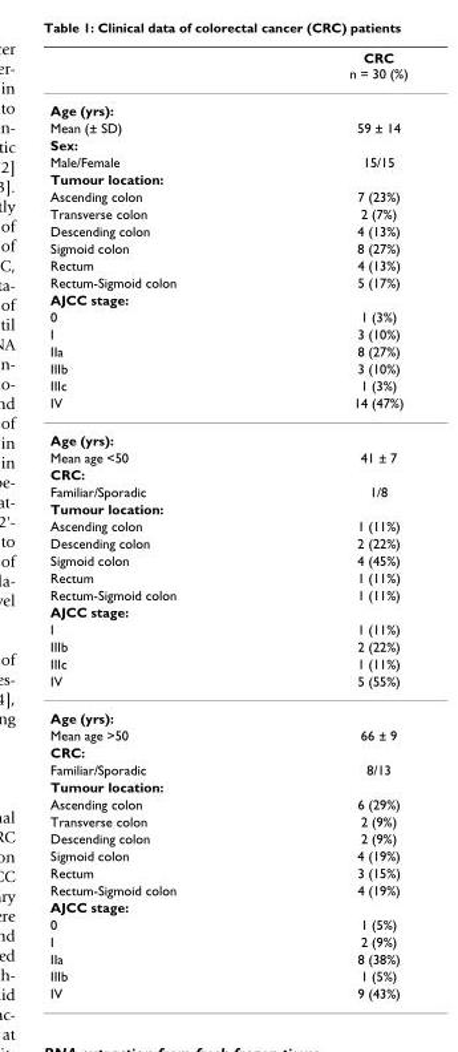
<table><thead><tr><td></td><td>CRC n = 30 (%)</td></tr></thead><tbody><tr><td colspan="2">Age (yrs):</td></tr><tr><td>Mean (± SD)</td><td>59 ± 14</td></tr><tr><td colspan="2">Sex:</td></tr><tr><td>Male/Female</td><td>15/15</td></tr><tr><td colspan="2">Tumour location:</td></tr><tr><td>Ascending colon</td><td>7 (23%)</td></tr><tr><td>Transverse colon</td><td>2 (7%)</td></tr><tr><td>Descending colon</td><td>4 (13%)</td></tr><tr><td>Sigmoid colon</td><td>8 (27%)</td></tr><tr><td>Rectum</td><td>4 (13%)</td></tr><tr><td>Rectum-Sigmoid colon</td><td>5 (17%)</td></tr><tr><td colspan="2">AJCC stage:</td></tr><tr><td>0</td><td>1 (3%)</td></tr><tr><td>I</td><td>3 (10%)</td></tr><tr><td>IIa</td><td>8 (27%)</td></tr><tr><td>IIIb</td><td>3 (10%)</td></tr><tr><td>IIIc</td><td>1 (3%)</td></tr><tr><td>IV</td><td>14 (47%)</td></tr><tr><td colspan="2">Age (yrs):</td></tr><tr><td>Mean age &lt;50</td><td>41 ± 7</td></tr><tr><td colspan="2">CRC:</td></tr><tr><td>Familiar/Sporadic</td><td>1/8</td></tr><tr><td colspan="2">Tumour location:</td></tr><tr><td>Ascending colon</td><td>1 (11%)</td></tr><tr><td>Descending colon</td><td>2 (22%)</td></tr><tr><td>Sigmoid colon</td><td>4 (45%)</td></tr><tr><td>Rectum</td><td>1 (11%)</td></tr><tr><td>Rectum-Sigmoid colon</td><td>1 (11%)</td></tr><tr><td colspan="2">AJCC stage:</td></tr><tr><td>I</td><td>1 (11%)</td></tr><tr><td>IIIb</td><td>2 (22%)</td></tr><tr><td>IIIc</td><td>1 (11%)</td></tr><tr><td>IV</td><td>5 (55%)</td></tr><tr><td colspan="2">Age (yrs):</td></tr><tr><td>Mean age &gt;50</td><td>66 ± 9</td></tr><tr><td colspan="2">CRC:</td></tr><tr><td>Familiar/Sporadic</td><td>8/13</td></tr><tr><td colspan="2">Tumour location:</td></tr><tr><td>Ascending colon</td><td>6 (29%)</td></tr><tr><td>Transverse colon</td><td>2 (9%)</td></tr><tr><td>Descending colon</td><td>2 (9%)</td></tr><tr><td>Sigmoid colon</td><td>4 (19%)</td></tr><tr><td>Rectum</td><td>3 (15%)</td></tr><tr><td>Rectum-Sigmoid colon</td><td>4 (19%)</td></tr><tr><td colspan="2">AJCC stage:</td></tr><tr><td>0</td><td>1 (5%)</td></tr><tr><td>I</td><td>2 (9%)</td></tr><tr><td>IIa</td><td>8 (38%)</td></tr><tr><td>IIIb</td><td>1 (5%)</td></tr><tr><td>IV</td><td>9 (43%)</td></tr></tbody></table>